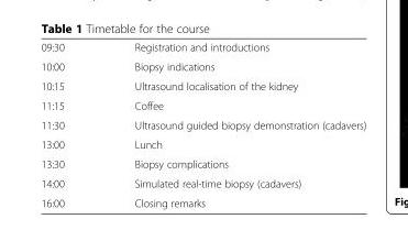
<table><tbody><tr><td>09:30</td><td>Registration and introductions</td></tr><tr><td>10:00</td><td>Biopsy indications</td></tr><tr><td>10:15</td><td>Ultrasound localisation of the kidney</td></tr><tr><td>11:15</td><td>Coffee</td></tr><tr><td>11:30</td><td>Ultrasound guided biopsy demonstration (cadavers)</td></tr><tr><td>13:00</td><td>Lunch</td></tr><tr><td>13:30</td><td>Biopsy complications</td></tr><tr><td>14:00</td><td>Simulated real-time biopsy (cadavers)</td></tr><tr><td>16:00</td><td>Closing remarks</td></tr></tbody></table>